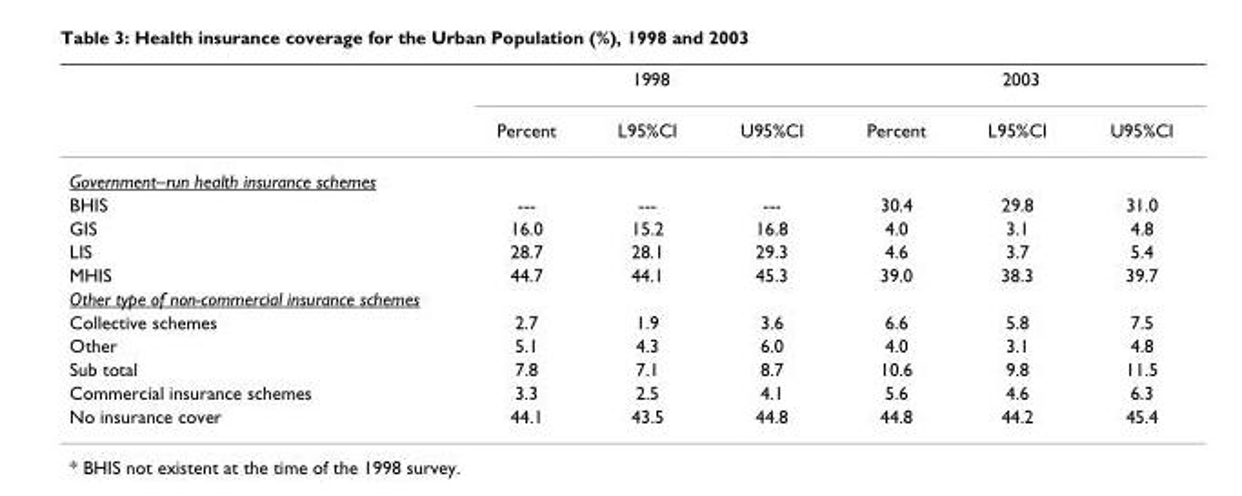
<table><thead><tr><td rowspan="2"></td><td colspan="3">1998</td><td colspan="3">2003</td></tr><tr><td>Percent</td><td>L95%CI</td><td>U95%CI</td><td>Percent</td><td>L95%CI</td><td>U95%CI</td></tr></thead><tbody><tr><td colspan="7">Government–run health insurance schemes</td></tr><tr><td>BHIS</td><td>---</td><td>---</td><td>---</td><td>30.4</td><td>29.8</td><td>31.0</td></tr><tr><td>GIS</td><td>16.0</td><td>15.2</td><td>16.8</td><td>4.0</td><td>3.1</td><td>4.8</td></tr><tr><td>LIS</td><td>28.7</td><td>28.1</td><td>29.3</td><td>4.6</td><td>3.7</td><td>5.4</td></tr><tr><td>MHIS</td><td>44.7</td><td>44.1</td><td>45.3</td><td>39.0</td><td>38.3</td><td>39.7</td></tr><tr><td colspan="7">Other type of non-commercial insurance schemes</td></tr><tr><td>Collective schemes</td><td>2.7</td><td>1.9</td><td>3.6</td><td>6.6</td><td>5.8</td><td>7.5</td></tr><tr><td>Other</td><td>5.1</td><td>4.3</td><td>6.0</td><td>4.0</td><td>3.1</td><td>4.8</td></tr><tr><td>Sub total</td><td>7.8</td><td>7.1</td><td>8.7</td><td>10.6</td><td>9.8</td><td>11.5</td></tr><tr><td>Commercial insurance schemes</td><td>3.3</td><td>2.5</td><td>4.1</td><td>5.6</td><td>4.6</td><td>6.3</td></tr><tr><td>No insurance cover</td><td>44.1</td><td>43.5</td><td>44.8</td><td>44.8</td><td>44.2</td><td>45.4</td></tr></tbody></table>